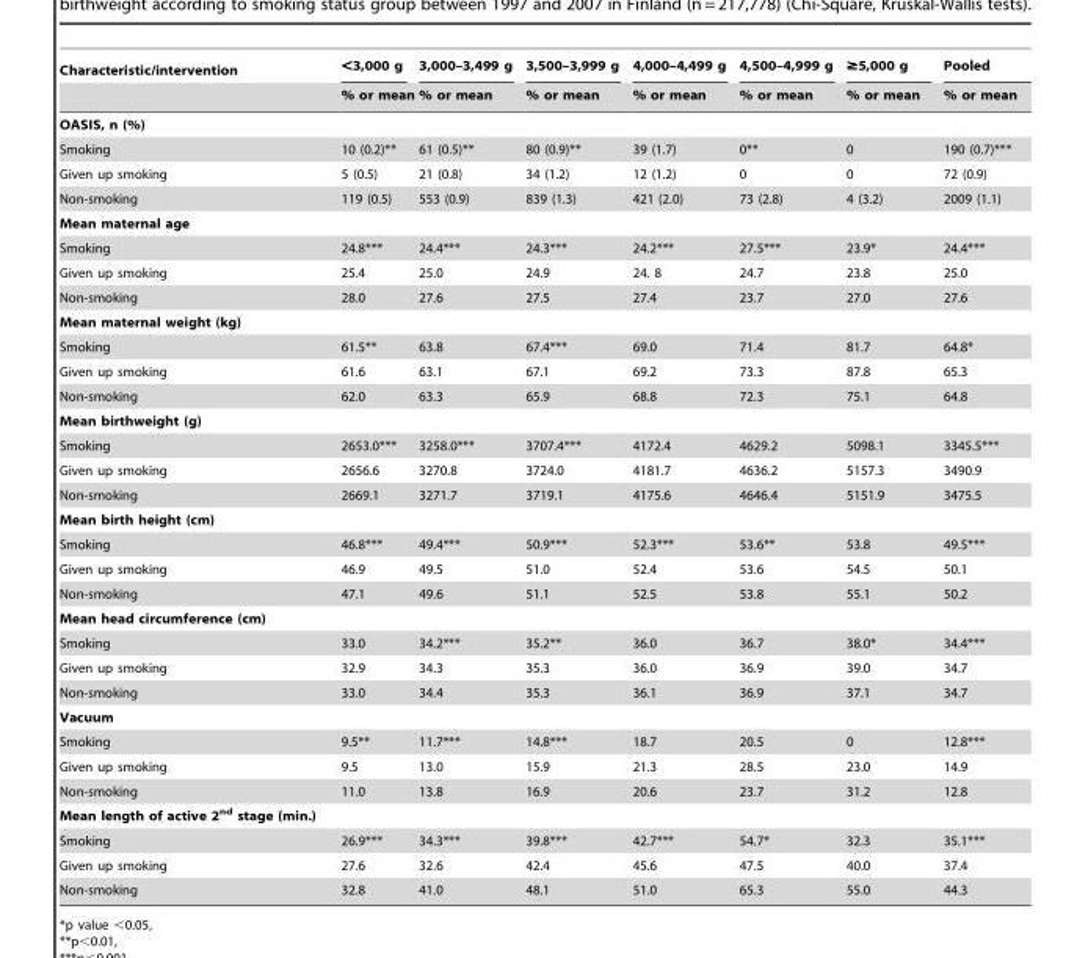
<table><thead><tr><td rowspan="2">Characteristic/intervention</td><td rowspan="2">&lt;3,000 g % or mean</td><td rowspan="2">3,000–3,499 g % or mean</td><td rowspan="2">3,500–3,999 g % or mean</td><td rowspan="2">4,000–4,499 g % or mean</td><td rowspan="2">4,500–4,999 g % or mean</td><td rowspan="2">≥5,000 g % or mean</td><td rowspan="2">Pooled % or mean</td></tr><tr></tr></thead><tbody><tr><td colspan="8">OASIS, n (%)</td></tr><tr><td>Smoking</td><td>10 (0.2)**</td><td>61 (0.5)**</td><td>80 (0.9)**</td><td>39 (1.7)</td><td>0**</td><td>0</td><td>190 (0.7)***</td></tr><tr><td>Given up smoking</td><td>5 (0.5)</td><td>21 (0.8)</td><td>34 (1.2)</td><td>12 (1.2)</td><td>0</td><td>0</td><td>72 (0.9)</td></tr><tr><td>Non-smoking</td><td>119 (0.5)</td><td>553 (0.9)</td><td>839 (1.3)</td><td>421 (2.0)</td><td>73 (2.8)</td><td>4 (3.2)</td><td>2009 (1.1)</td></tr><tr><td colspan="8">Mean maternal age</td></tr><tr><td>Smoking</td><td>24.8***</td><td>24.4***</td><td>24.3***</td><td>24.2***</td><td>27.5***</td><td>23.9*</td><td>24.4***</td></tr><tr><td>Given up smoking</td><td>25.4</td><td>25.0</td><td>24.9</td><td>24. 8</td><td>24.7</td><td>23.8</td><td>25.0</td></tr><tr><td>Non-smoking</td><td>28.0</td><td>27.6</td><td>27.5</td><td>27.4</td><td>23.7</td><td>27.0</td><td>27.6</td></tr><tr><td colspan="8">Mean maternal weight (kg)</td></tr><tr><td>Smoking</td><td>61.5**</td><td>63.8</td><td>67.4***</td><td>69.0</td><td>71.4</td><td>81.7</td><td>64.8*</td></tr><tr><td>Given up smoking</td><td>61.6</td><td>63.1</td><td>67.1</td><td>69.2</td><td>73.3</td><td>87.8</td><td>65.3</td></tr><tr><td>Non-smoking</td><td>62.0</td><td>63.3</td><td>65.9</td><td>68.8</td><td>72.3</td><td>75.1</td><td>64.8</td></tr><tr><td colspan="8">Mean birthweight (g)</td></tr><tr><td>Smoking</td><td>2653.0***</td><td>3258.0***</td><td>3707.4***</td><td>4172.4</td><td>4629.2</td><td>5098.1</td><td>3345.5***</td></tr><tr><td>Given up smoking</td><td>2656.6</td><td>3270.8</td><td>3724.0</td><td>4181.7</td><td>4636.2</td><td>5157.3</td><td>3490.9</td></tr><tr><td>Non-smoking</td><td>2669.1</td><td>3271.7</td><td>3719.1</td><td>4175.6</td><td>4646.4</td><td>5151.9</td><td>3475.5</td></tr><tr><td colspan="8">Mean birth height (cm)</td></tr><tr><td>Smoking</td><td>46.8***</td><td>49.4***</td><td>50.9***</td><td>52.3***</td><td>53.6**</td><td>53.8</td><td>49.5***</td></tr><tr><td>Given up smoking</td><td>46.9</td><td>49.5</td><td>51.0</td><td>52.4</td><td>53.6</td><td>54.5</td><td>50.1</td></tr><tr><td>Non-smoking</td><td>47.1</td><td>49.6</td><td>51.1</td><td>52.5</td><td>53.8</td><td>55.1</td><td>50.2</td></tr><tr><td colspan="8">Mean head circumference (cm)</td></tr><tr><td>Smoking</td><td>33.0</td><td>34.2***</td><td>35.2**</td><td>36.0</td><td>36.7</td><td>38.0*</td><td>34.4***</td></tr><tr><td>Given up smoking</td><td>32.9</td><td>34.3</td><td>35.3</td><td>36.0</td><td>36.9</td><td>39.0</td><td>34.7</td></tr><tr><td>Non-smoking</td><td>33.0</td><td>34.4</td><td>35.3</td><td>36.1</td><td>36.9</td><td>37.1</td><td>34.7</td></tr><tr><td colspan="8">Vacuum</td></tr><tr><td>Smoking</td><td>9.5**</td><td>11.7***</td><td>14.8***</td><td>18.7</td><td>20.5</td><td>0</td><td>12.8***</td></tr><tr><td>Given up smoking</td><td>9.5</td><td>13.0</td><td>15.9</td><td>21.3</td><td>28.5</td><td>23.0</td><td>14.9</td></tr><tr><td>Non-smoking</td><td>11.0</td><td>13.8</td><td>16.9</td><td>20.6</td><td>23.7</td><td>31.2</td><td>12.8</td></tr><tr><td colspan="8">Mean length of active 2<sup>nd</sup> stage (min.)</td></tr><tr><td>Smoking</td><td>26.9***</td><td>34.3***</td><td>39.8***</td><td>42.7***</td><td>54.7*</td><td>32.3</td><td>35.1***</td></tr><tr><td>Given up smoking</td><td>27.6</td><td>32.6</td><td>42.4</td><td>45.6</td><td>47.5</td><td>40.0</td><td>37.4</td></tr><tr><td>Non-smoking</td><td>32.8</td><td>41.0</td><td>48.1</td><td>51.0</td><td>65.3</td><td>55.0</td><td>44.3</td></tr></tbody></table>